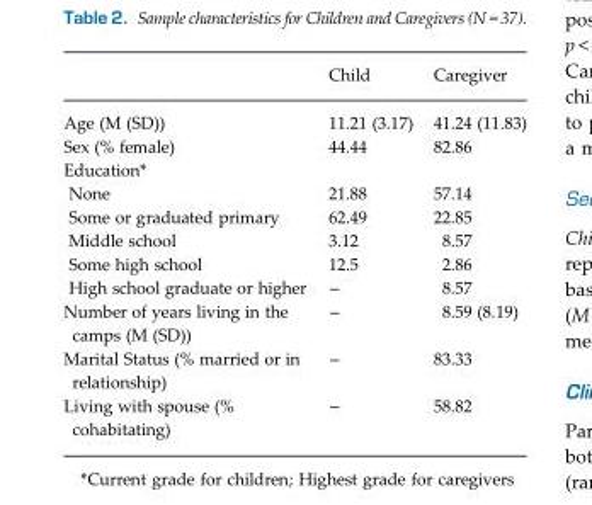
<table><thead><tr><td></td><td>Child</td><td>Caregiver</td></tr></thead><tbody><tr><td>Age (M (SD))</td><td>11.21 (3.17)</td><td>41.24 (11.83)</td></tr><tr><td>Sex (% female)</td><td>44.44</td><td>82.86</td></tr><tr><td colspan="3">Education*</td></tr><tr><td>None</td><td>21.88</td><td>57.14</td></tr><tr><td>Some or graduated primary</td><td>62.49</td><td>22.85</td></tr><tr><td>Middle school</td><td>3.12</td><td>8.57</td></tr><tr><td>Some high school</td><td>12.5</td><td>2.86</td></tr><tr><td>High school graduate or higher</td><td>−</td><td>8.57</td></tr><tr><td>Number of years living in the camps (M (SD))</td><td>−</td><td>8.59 (8.19)</td></tr><tr><td>Marital Status (% married or in relationship)</td><td>−</td><td>83.33</td></tr><tr><td>Living with spouse (% cohabitating)</td><td>−</td><td>58.82</td></tr></tbody></table>